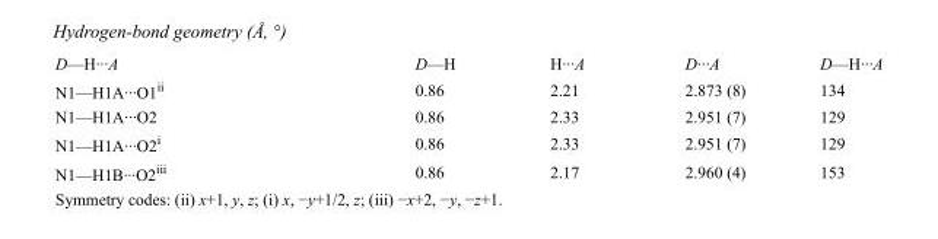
<table><tbody><tr><td>D—H···A</td><td>D—H</td><td>H···A</td><td>D···A</td><td>D—H···A</td></tr><tr><td>N1—H1A···O1<sup>ii</sup></td><td>0.86</td><td>2.21</td><td>2.873 (8)</td><td>134</td></tr><tr><td>N1—H1A···O2</td><td>0.86</td><td>2.33</td><td>2.951 (7)</td><td>129</td></tr><tr><td>N1—H1A···O2<sup>i</sup></td><td>0.86</td><td>2.33</td><td>2.951 (7)</td><td>129</td></tr><tr><td>N1—H1B···O2<sup>iii</sup></td><td>0.86</td><td>2.17</td><td>2.960 (4)</td><td>153</td></tr></tbody></table>